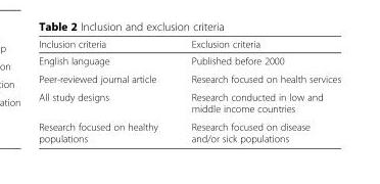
<table><thead><tr><td>Inclusion criteria</td><td>Exclusion criteria</td></tr></thead><tbody><tr><td>English language</td><td>Published before 2000</td></tr><tr><td>Peer-reviewed journal article</td><td>Research focused on health services</td></tr><tr><td>All study designs</td><td>Research conducted in low and middle income countries</td></tr><tr><td>Research focused on healthy populations</td><td>Research focused on disease and/or sick populations</td></tr></tbody></table>